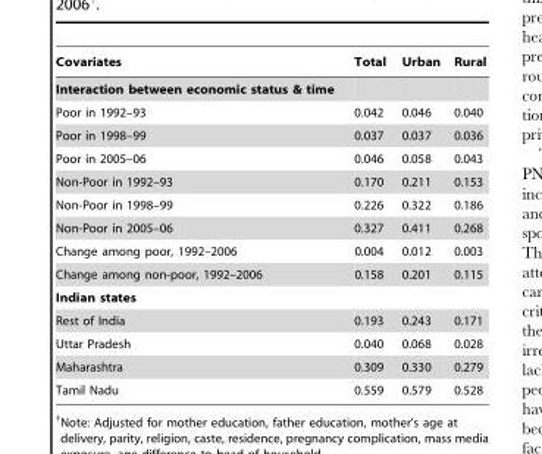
<table><thead><tr><td>Covariates</td><td>Total</td><td>Urban</td><td>Rural</td></tr></thead><tbody><tr><td colspan="4">Interaction between economic status &amp; time</td></tr><tr><td>Poor in 1992–93</td><td>0.042</td><td>0.046</td><td>0.040</td></tr><tr><td>Poor in 1998–99</td><td>0.037</td><td>0.037</td><td>0.036</td></tr><tr><td>Poor in 2005–06</td><td>0.046</td><td>0.058</td><td>0.043</td></tr><tr><td>Non-Poor in 1992–93</td><td>0.170</td><td>0.211</td><td>0.153</td></tr><tr><td>Non-Poor in 1998–99</td><td>0.226</td><td>0.322</td><td>0.186</td></tr><tr><td>Non-Poor in 2005–06</td><td>0.327</td><td>0.411</td><td>0.268</td></tr><tr><td>Change among poor, 1992–2006</td><td>0.004</td><td>0.012</td><td>0.003</td></tr><tr><td>Change among non-poor, 1992–2006</td><td>0.158</td><td>0.201</td><td>0.115</td></tr><tr><td colspan="4">Indian states</td></tr><tr><td>Rest of India</td><td>0.193</td><td>0.243</td><td>0.171</td></tr><tr><td>Uttar Pradesh</td><td>0.040</td><td>0.068</td><td>0.028</td></tr><tr><td>Maharashtra</td><td>0.309</td><td>0.330</td><td>0.279</td></tr><tr><td>Tamil Nadu</td><td>0.559</td><td>0.579</td><td>0.528</td></tr></tbody></table>